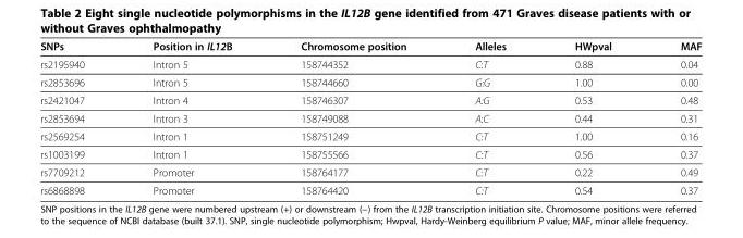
<table><thead><tr><td>SNPs</td><td>Position in IL12B</td><td>Chromosome position</td><td>Alleles</td><td>HWpval</td><td>MAF</td></tr></thead><tbody><tr><td>rs2195940</td><td>Intron 5</td><td>158744352</td><td>C:T</td><td>0.88</td><td>0.04</td></tr><tr><td>rs2853696</td><td>Intron 5</td><td>158744660</td><td>G:G</td><td>1.00</td><td>0.00</td></tr><tr><td>rs2421047</td><td>Intron 4</td><td>158746307</td><td>A:G</td><td>0.53</td><td>0.48</td></tr><tr><td>rs2853694</td><td>Intron 3</td><td>158749088</td><td>A:C</td><td>0.44</td><td>0.31</td></tr><tr><td>rs2569254</td><td>Intron 1</td><td>158751249</td><td>C:T</td><td>1.00</td><td>0.16</td></tr><tr><td>rs1003199</td><td>Intron 1</td><td>158755566</td><td>C:T</td><td>0.56</td><td>0.37</td></tr><tr><td>rs7709212</td><td>Promoter</td><td>158764177</td><td>C:T</td><td>0.22</td><td>0.49</td></tr><tr><td>rs6868898</td><td>Promoter</td><td>158764420</td><td>C:T</td><td>0.54</td><td>0.37</td></tr></tbody></table>